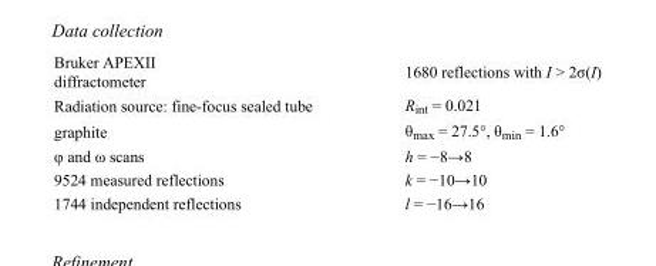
<table><tbody><tr><td>Bruker APEXII diffractometer</td><td>1680 reflections with I &gt; 2σ(I)</td></tr><tr><td>Radiation source: fine-focus sealed tube</td><td>R<sub>int</sub> = 0.021</td></tr><tr><td>graphite</td><td>θ<sub>max</sub> = 27.5°, θ<sub>min</sub> = 1.6°</td></tr><tr><td>φ and ω scans</td><td>h = −8→8</td></tr><tr><td>9524 measured reflections</td><td>k = −10→10</td></tr><tr><td>1744 independent reflections</td><td>l = −16→16</td></tr></tbody></table>